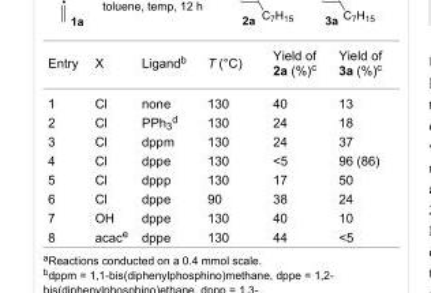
<table><tbody><tr><td>Entry</td><td>X</td><td>Ligand<sup>b</sup></td><td>T (°C)</td><td>Yield of 2a (%)<sup>c</sup></td><td>Yield of 3a (%)<sup>c</sup></td></tr><tr><td>1</td><td>Cl</td><td>none</td><td>130</td><td>40</td><td>13</td></tr><tr><td>2</td><td>Cl</td><td>PPh<sub>3</sub><sup>d</sup></td><td>130</td><td>24</td><td>18</td></tr><tr><td>3</td><td>Cl</td><td>dppm</td><td>130</td><td>24</td><td>37</td></tr><tr><td>4</td><td>Cl</td><td>dppe</td><td>130</td><td>&lt;5</td><td>96 (86)</td></tr><tr><td>5</td><td>Cl</td><td>dppp</td><td>130</td><td>17</td><td>50</td></tr><tr><td>6</td><td>Cl</td><td>dppe</td><td>90</td><td>38</td><td>24</td></tr><tr><td>7</td><td>OH</td><td>dppe</td><td>130</td><td>40</td><td>10</td></tr><tr><td>8</td><td>acac<sup>e</sup></td><td>dppe</td><td>130</td><td>44</td><td>&lt;5</td></tr></tbody></table>